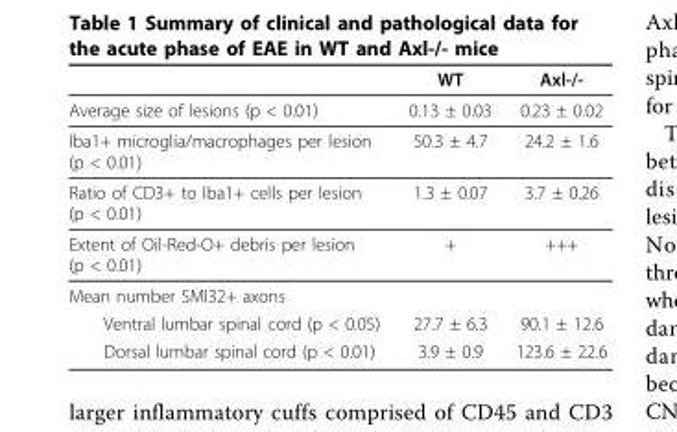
<table><thead><tr><td></td><td>WT</td><td>Axl-/-</td></tr></thead><tbody><tr><td>Average size of lesions (p &lt; 0.01)</td><td>0.13 ± 0.03</td><td>0.23 ± 0.02</td></tr><tr><td>Iba1+ microglia/macrophages per lesion (p &lt; 0.01)</td><td>50.3 ± 4.7</td><td>24.2 ± 1.6</td></tr><tr><td>Ratio of CD3+ to Iba1+ cells per lesion (p &lt; 0.01)</td><td>1.3 ± 0.07</td><td>3.7 ± 0.26</td></tr><tr><td>Extent of Oil-Red-O+ debris per lesion (p &lt; 0.01)</td><td>+</td><td>+++</td></tr><tr><td colspan="3">Mean number SMI32+ axons</td></tr><tr><td>Ventral lumbar spinal cord (p &lt; 0.05)</td><td>27.7 ± 6.3</td><td>90.1 ± 12.6</td></tr><tr><td>Dorsal lumbar spinal cord (p &lt; 0.01)</td><td>3.9 ± 0.9</td><td>123.6 ± 22.6</td></tr></tbody></table>